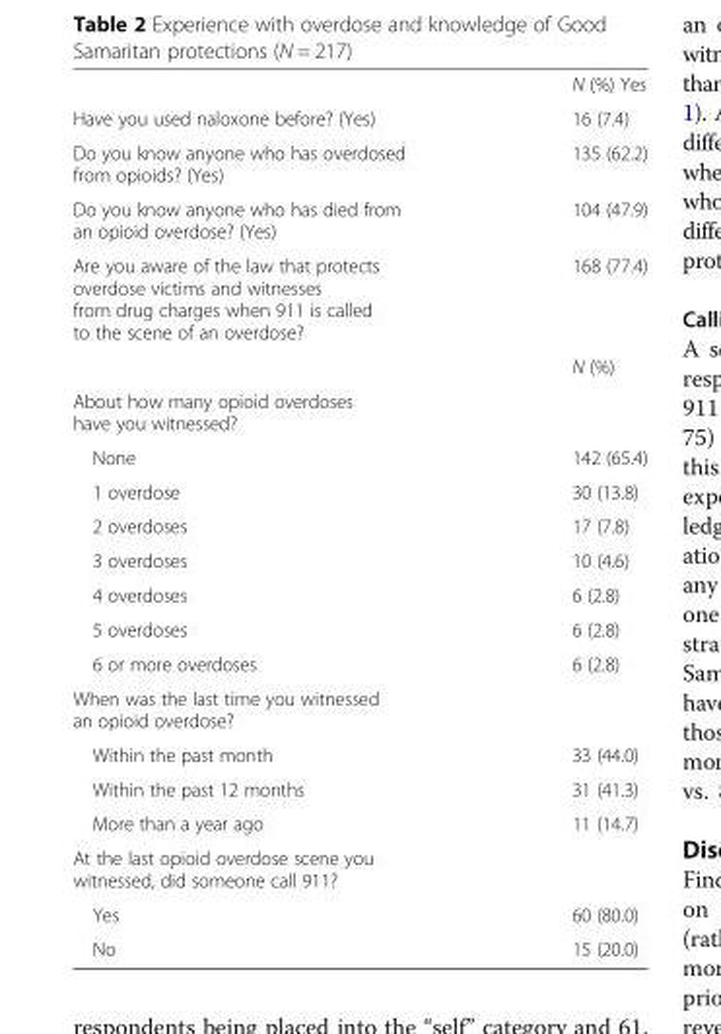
<table><thead><tr><td></td><td>N (%) Yes</td></tr></thead><tbody><tr><td>Have you used naloxone before? (Yes)</td><td>16 (7.4)</td></tr><tr><td>Do you know anyone who has overdosed from opioids? (Yes)</td><td>135 (62.2)</td></tr><tr><td>Do you know anyone who has died from an opioid overdose? (Yes)</td><td>104 (47.9)</td></tr><tr><td rowspan="2">Are you aware of the law that protects overdose victims and witnesses from drug charges when 911 is called to the scene of an overdose?</td><td>168 (77.4)</td></tr><tr><td>N (%)</td></tr><tr><td colspan="2">About how many opioid overdoses have you witnessed?</td></tr><tr><td>None</td><td>142 (65.4)</td></tr><tr><td>1 overdose</td><td>30 (13.8)</td></tr><tr><td>2 overdoses</td><td>17 (7.8)</td></tr><tr><td>3 overdoses</td><td>10 (4.6)</td></tr><tr><td>4 overdoses</td><td>6 (2.8)</td></tr><tr><td>5 overdoses</td><td>6 (2.8)</td></tr><tr><td>6 or more overdoses</td><td>6 (2.8)</td></tr><tr><td colspan="2">When was the last time you witnessed an opioid overdose?</td></tr><tr><td>Within the past month</td><td>33 (44.0)</td></tr><tr><td>Within the past 12 months</td><td>31 (41.3)</td></tr><tr><td>More than a year ago</td><td>11 (14.7)</td></tr><tr><td colspan="2">At the last opioid overdose scene you witnessed, did someone call 911?</td></tr><tr><td>Yes</td><td>60 (80.0)</td></tr><tr><td>No</td><td>15 (20.0)</td></tr></tbody></table>